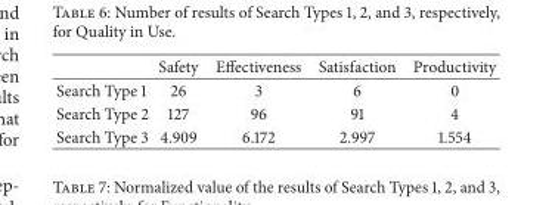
<table><thead><tr><td></td><td>Safety</td><td>Effectiveness</td><td>Satisfaction</td><td>Productivity</td></tr></thead><tbody><tr><td>Search Type 1</td><td>26</td><td>3</td><td>6</td><td>0</td></tr><tr><td>Search Type 2</td><td>127</td><td>96</td><td>91</td><td>4</td></tr><tr><td>Search Type 3</td><td>4.909</td><td>6.172</td><td>2.997</td><td>1.554</td></tr></tbody></table>